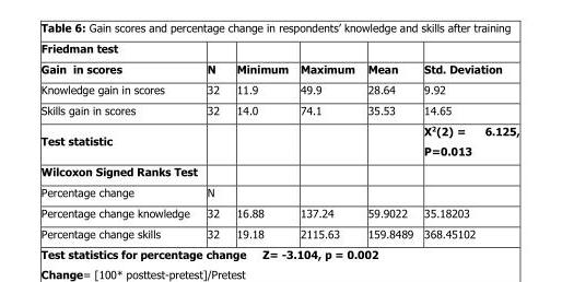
<table><thead><tr><td rowspan="2">Friedman test Gain in scores</td><td rowspan="2">N</td><td rowspan="2">Minimum</td><td rowspan="2">Maximum</td><td rowspan="2">Mean</td><td rowspan="2">Std. Deviation</td></tr><tr></tr></thead><tbody><tr><td>Knowledge gain in scores</td><td>32</td><td>11.9</td><td>49.9</td><td>28.64</td><td>9.92</td></tr><tr><td>Skills gain in scores</td><td>32</td><td>14.0</td><td>74.1</td><td>35.53</td><td>14.65</td></tr><tr><td>Test statistic</td><td></td><td></td><td></td><td></td><td>X<sup>2</sup>(2) = 6.125, P=0.013</td></tr><tr><td colspan="6">Wilcoxon Signed Ranks Test</td></tr><tr><td>Percentage change</td><td>N</td><td></td><td></td><td></td><td></td></tr><tr><td>Percentage change knowledge</td><td>32</td><td>16.88</td><td>137.24</td><td>59.9022</td><td>35.18203</td></tr><tr><td>Percentage change skills</td><td>32</td><td>19.18</td><td>2115.63</td><td>159.8489</td><td>368.45102</td></tr></tbody></table>